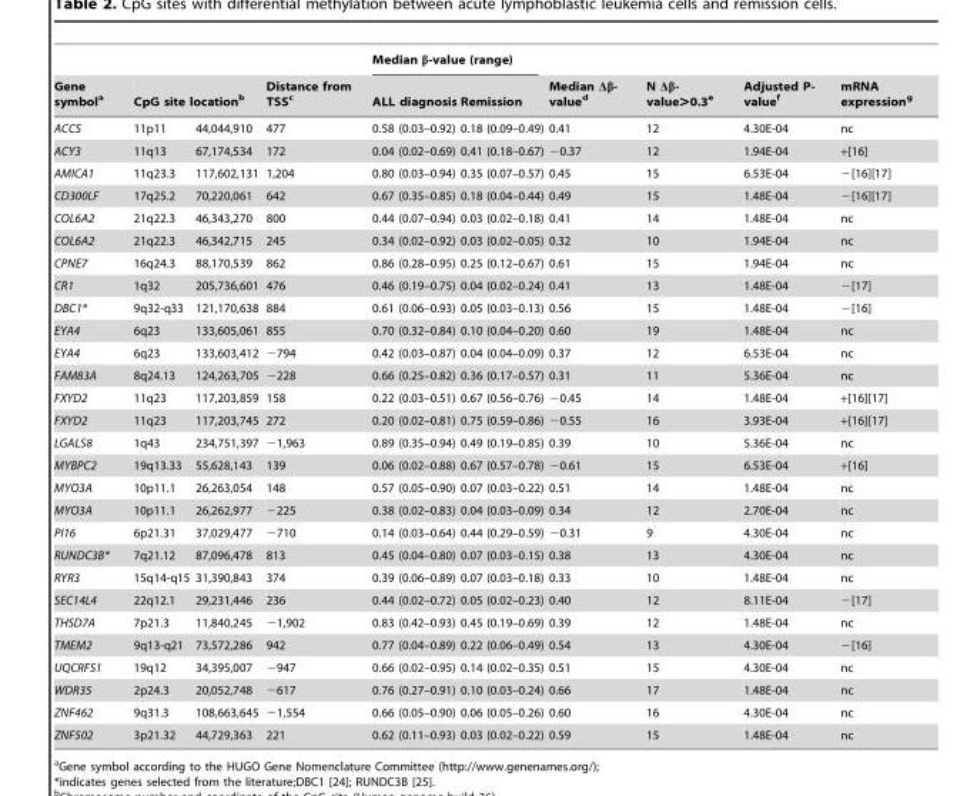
<table><thead><tr><td rowspan="2">Gene symbol<sup>a</sup></td><td></td><td></td><td rowspan="2">Distance from TSS<sup>c</sup></td><td colspan="2">Median β-value (range)</td><td rowspan="2">Median Δβ- value<sup>d</sup></td><td rowspan="2">N Δβ- value&gt;0.3<sup>e</sup></td><td rowspan="2">Adjusted P- value<sup>f</sup></td><td rowspan="2">mRNA expression<sup>g</sup></td></tr><tr><td colspan="2">CpG site location<sup>b</sup></td><td>ALL diagnosis</td><td>Remission</td></tr></thead><tbody><tr><td>ACCS</td><td>11p11</td><td>44,044,910</td><td>477</td><td>0.58 (0.03–0.92)</td><td>0.18 (0.09–0.49)</td><td>0.41</td><td>12</td><td>4.30E-04</td><td>nc</td></tr><tr><td>ACY3</td><td>11q13</td><td>67,174,534</td><td>172</td><td>0.04 (0.02–0.69)</td><td>0.41 (0.18–0.67)</td><td>−0.37</td><td>12</td><td>1.94E-04</td><td>+[16]</td></tr><tr><td>AMICA1</td><td>11q23.3</td><td>117,602,131</td><td>1,204</td><td>0.80 (0.03–0.94)</td><td>0.35 (0.07–0.57)</td><td>0.45</td><td>15</td><td>6.53E-04</td><td>−[16][17]</td></tr><tr><td>CD300LF</td><td>17q25.2</td><td>70,220,061</td><td>642</td><td>0.67 (0.35–0.85)</td><td>0.18 (0.04–0.44)</td><td>0.49</td><td>15</td><td>1.48E-04</td><td>−[16][17]</td></tr><tr><td>COL6A2</td><td>21q22.3</td><td>46,343,270</td><td>800</td><td>0.44 (0.07–0.94)</td><td>0.03 (0.02–0.18)</td><td>0.41</td><td>14</td><td>1.48E-04</td><td>nc</td></tr><tr><td>COL6A2</td><td>21q22.3</td><td>46,342,715</td><td>245</td><td>0.34 (0.02–0.92)</td><td>0.03 (0.02–0.05)</td><td>0.32</td><td>10</td><td>1.94E-04</td><td>nc</td></tr><tr><td>CPNE7</td><td>16q24.3</td><td>88,170,539</td><td>862</td><td>0.86 (0.28–0.95)</td><td>0.25 (0.12–0.67)</td><td>0.61</td><td>15</td><td>1.94E-04</td><td>nc</td></tr><tr><td>CR1</td><td>1q32</td><td>205,736,601</td><td>476</td><td>0.46 (0.19–0.75)</td><td>0.04 (0.02–0.24)</td><td>0.41</td><td>13</td><td>1.48E-04</td><td>−[17]</td></tr><tr><td>DBC1*</td><td>9q32-q33</td><td>121,170,638</td><td>884</td><td>0.61 (0.06–0.93)</td><td>0.05 (0.03–0.13)</td><td>0.56</td><td>15</td><td>1.48E-04</td><td>−[16]</td></tr><tr><td>EYA4</td><td>6q23</td><td>133,605,061</td><td>855</td><td>0.70 (0.32–0.84)</td><td>0.10 (0.04–0.20)</td><td>0.60</td><td>19</td><td>1.48E-04</td><td>nc</td></tr><tr><td>EYA4</td><td>6q23</td><td>133,603,412</td><td>−794</td><td>0.42 (0.03–0.87)</td><td>0.04 (0.04–0.09)</td><td>0.37</td><td>12</td><td>6.53E-04</td><td>nc</td></tr><tr><td>FAM83A</td><td>8q24.13</td><td>124,263,705</td><td>−228</td><td>0.66 (0.25–0.82)</td><td>0.36 (0.17–0.57)</td><td>0.31</td><td>11</td><td>5.36E-04</td><td>nc</td></tr><tr><td>FXYD2</td><td>11q23</td><td>117,203,859</td><td>158</td><td>0.22 (0.03–0.51)</td><td>0.67 (0.56–0.76)</td><td>−0.45</td><td>14</td><td>1.48E-04</td><td>+[16][17]</td></tr><tr><td>FXYD2</td><td>11q23</td><td>117,203,745</td><td>272</td><td>0.20 (0.02–0.81)</td><td>0.75 (0.59–0.86)</td><td>−0.55</td><td>16</td><td>3.93E-04</td><td>+[16][17]</td></tr><tr><td>LGALS8</td><td>1q43</td><td>234,751,397</td><td>−1,963</td><td>0.89 (0.35–0.94)</td><td>0.49 (0.19–0.85)</td><td>0.39</td><td>10</td><td>5.36E-04</td><td>nc</td></tr><tr><td>MYBPC2</td><td>19q13.33</td><td>55,628,143</td><td>139</td><td>0.06 (0.02–0.88)</td><td>0.67 (0.57–0.78)</td><td>−0.61</td><td>15</td><td>6.53E-04</td><td>+[16]</td></tr><tr><td>MYO3A</td><td>10p11.1</td><td>26,263,054</td><td>148</td><td>0.57 (0.05–0.90)</td><td>0.07 (0.03–0.22)</td><td>0.51</td><td>14</td><td>1.48E-04</td><td>nc</td></tr><tr><td>MYO3A</td><td>10p11.1</td><td>26,262,977</td><td>−225</td><td>0.38 (0.02–0.83)</td><td>0.04 (0.03–0.09)</td><td>0.34</td><td>12</td><td>2.70E-04</td><td>nc</td></tr><tr><td>PI16</td><td>6p21.31</td><td>37,029,477</td><td>−710</td><td>0.14 (0.03–0.64)</td><td>0.44 (0.29–0.59)</td><td>−0.31</td><td>9</td><td>4.30E-04</td><td>nc</td></tr><tr><td>RUNDC3B*</td><td>7q21.12</td><td>87,096,478</td><td>813</td><td>0.45 (0.04–0.80)</td><td>0.07 (0.03–0.15)</td><td>0.38</td><td>13</td><td>4.30E-04</td><td>nc</td></tr><tr><td>RYR3</td><td>15q14-q15</td><td>31,390,843</td><td>374</td><td>0.39 (0.06–0.89)</td><td>0.07 (0.03–0.18)</td><td>0.33</td><td>10</td><td>1.48E-04</td><td>nc</td></tr><tr><td>SEC14L4</td><td>22q12.1</td><td>29,231,446</td><td>236</td><td>0.44 (0.02–0.72)</td><td>0.05 (0.02–0.23)</td><td>0.40</td><td>12</td><td>8.11E-04</td><td>−[17]</td></tr><tr><td>THSD7A</td><td>7p21.3</td><td>11,840,245</td><td>−1,902</td><td>0.83 (0.42–0.93)</td><td>0.45 (0.19–0.69)</td><td>0.39</td><td>12</td><td>1.48E-04</td><td>nc</td></tr><tr><td>TMEM2</td><td>9q13-q21</td><td>73,572,286</td><td>942</td><td>0.77 (0.04–0.89)</td><td>0.22 (0.06–0.49)</td><td>0.54</td><td>13</td><td>4.30E-04</td><td>−[16]</td></tr><tr><td>UQCRFS1</td><td>19q12</td><td>34,395,007</td><td>−947</td><td>0.66 (0.02–0.95)</td><td>0.14 (0.02–0.35)</td><td>0.51</td><td>15</td><td>4.30E-04</td><td>nc</td></tr><tr><td>WDR35</td><td>2p24.3</td><td>20,052,748</td><td>−617</td><td>0.76 (0.27–0.91)</td><td>0.10 (0.03–0.24)</td><td>0.66</td><td>17</td><td>1.48E-04</td><td>nc</td></tr><tr><td>ZNF462</td><td>9q31.3</td><td>108,663,645</td><td>−1,554</td><td>0.66 (0.05–0.90)</td><td>0.06 (0.05–0.26)</td><td>0.60</td><td>16</td><td>4.30E-04</td><td>nc</td></tr><tr><td>ZNF502</td><td>3p21.32</td><td>44,729,363</td><td>221</td><td>0.62 (0.11–0.93)</td><td>0.03 (0.02–0.22)</td><td>0.59</td><td>15</td><td>1.48E-04</td><td>nc</td></tr></tbody></table>